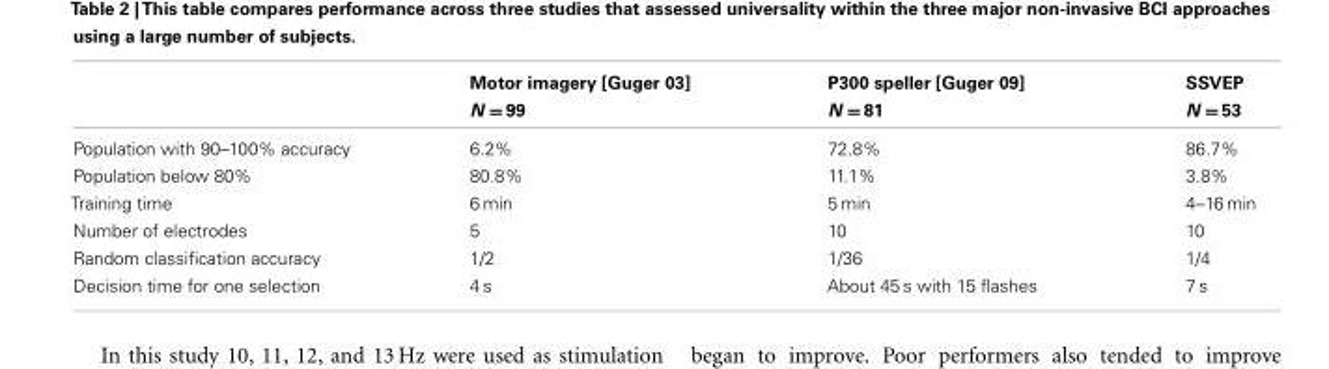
<table><thead><tr><td></td><td>Motor imagery [Guger 03] N = 99</td><td>P300 speller [Guger 09] N = 81</td><td>SSVEP N = 53</td></tr></thead><tbody><tr><td>Population with 90–100% accuracy</td><td>6.2%</td><td>72.8%</td><td>86.7%</td></tr><tr><td>Population below 80%</td><td>80.8%</td><td>11.1%</td><td>3.8%</td></tr><tr><td>Training time</td><td>6 min</td><td>5 min</td><td>4–16 min</td></tr><tr><td>Number of electrodes</td><td>5</td><td>10</td><td>10</td></tr><tr><td>Random classification accuracy</td><td>1/2</td><td>1/36</td><td>1/4</td></tr><tr><td>Decision time for one selection</td><td>4 s</td><td>About 45 s with 15 flashes</td><td>7 s</td></tr></tbody></table>